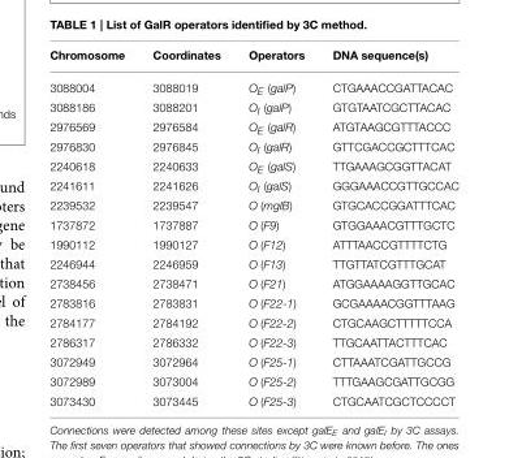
<table><thead><tr><td>Chromosome</td><td>Coordinates</td><td>Operators</td><td>DNA sequence(s)</td></tr></thead><tbody><tr><td>3088004</td><td>3088019</td><td>OE (galP)</td><td>CTGAAACCGATTACAC</td></tr><tr><td>3088186</td><td>3088201</td><td>OI (galP)</td><td>GTGTAATCGCTTACAC</td></tr><tr><td>2976569</td><td>2976584</td><td>OE (galR)</td><td>ATGTAAGCGTTTACCC</td></tr><tr><td>2976830</td><td>2976845</td><td>OI (galR)</td><td>GTTCGACCGCTTTCAC</td></tr><tr><td>2240618</td><td>2240633</td><td>OE (galS)</td><td>TTGAAAGCGGTTACAT</td></tr><tr><td>2241611</td><td>2241626</td><td>OI (galS)</td><td>GGGAAACCGTTGCCAC</td></tr><tr><td>2239532</td><td>2239547</td><td>O (mglB)</td><td>GTGCACCGGATTTCAC</td></tr><tr><td>1737872</td><td>1737887</td><td>O (F9)</td><td>GTGGAAACGTTTGCTC</td></tr><tr><td>1990112</td><td>1990127</td><td>O (F12)</td><td>ATTTAACCGTTTTCTG</td></tr><tr><td>2246944</td><td>2246959</td><td>O (F13)</td><td>TTGTTATCGTTTGCAT</td></tr><tr><td>2738456</td><td>2738471</td><td>O (F21)</td><td>ATGGAAAAGGTTGCAC</td></tr><tr><td>2783816</td><td>2783831</td><td>O (F22-1)</td><td>GCGAAAACGGTTTAAG</td></tr><tr><td>2784177</td><td>2784192</td><td>O (F22-2)</td><td>CTGCAAGCTTTTTCCA</td></tr><tr><td>2786317</td><td>2786332</td><td>O (F22-3)</td><td>TTGCAATTACTTTCAC</td></tr><tr><td>3072949</td><td>3072964</td><td>O (F25-1)</td><td>CTTAAATCGATTGCCG</td></tr><tr><td>3072989</td><td>3073004</td><td>O (F25-2)</td><td>TTTGAAGCGATTGCGG</td></tr><tr><td>3073430</td><td>3073445</td><td>O (F25-3)</td><td>CTGCAATCGCTCCCCT</td></tr></tbody></table>